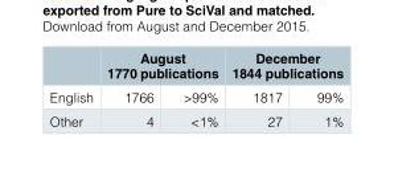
<table><thead><tr><td rowspan="2">English</td><td colspan="2">August 1770 publications</td><td colspan="2">December 1844 publications</td></tr><tr><td>1766</td><td>&gt;99%</td><td>1817</td><td>99%</td></tr></thead><tbody><tr><td>Other</td><td>4</td><td>&lt;1%</td><td>27</td><td>1%</td></tr></tbody></table>